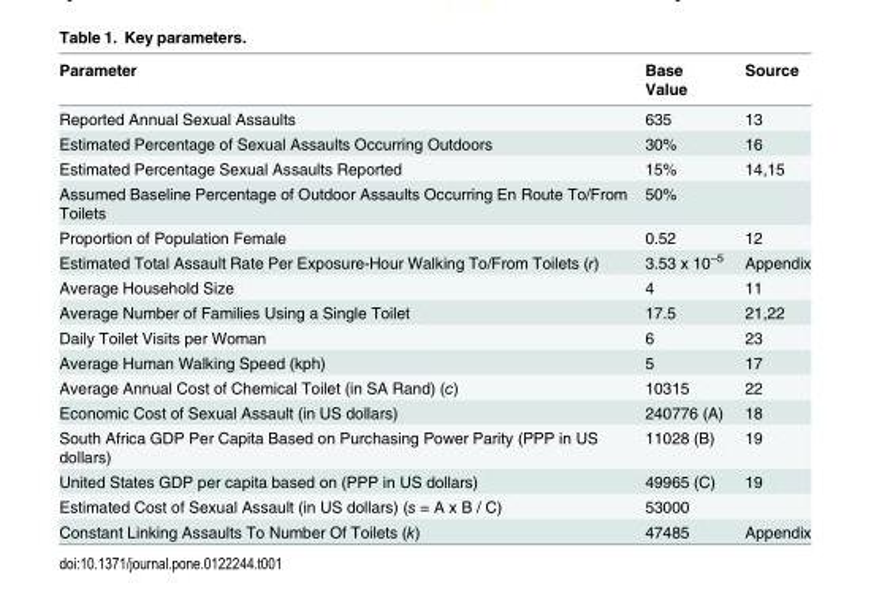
<table><thead><tr><td>Parameter</td><td>Base Value</td><td>Source</td></tr></thead><tbody><tr><td>Reported Annual Sexual Assaults</td><td>635</td><td>13</td></tr><tr><td>Estimated Percentage of Sexual Assaults Occurring Outdoors</td><td>30%</td><td>16</td></tr><tr><td>Estimated Percentage Sexual Assaults Reported</td><td>15%</td><td>14,15</td></tr><tr><td>Assumed Baseline Percentage of Outdoor Assaults Occurring En Route To/From Toilets</td><td>50%</td><td></td></tr><tr><td>Proportion of Population Female</td><td>0.52</td><td>12</td></tr><tr><td>Estimated Total Assault Rate Per Exposure-Hour Walking To/From Toilets (r)</td><td>3.53 x 10<sup>–5</sup></td><td>Appendix</td></tr><tr><td>Average Household Size</td><td>4</td><td>11</td></tr><tr><td>Average Number of Families Using a Single Toilet</td><td>17.5</td><td>21,22</td></tr><tr><td>Daily Toilet Visits per Woman</td><td>6</td><td>23</td></tr><tr><td>Average Human Walking Speed (kph)</td><td>5</td><td>17</td></tr><tr><td>Average Annual Cost of Chemical Toilet (in SA Rand) (c)</td><td>10315</td><td>22</td></tr><tr><td>Economic Cost of Sexual Assault (in US dollars)</td><td>240776 (A)</td><td>18</td></tr><tr><td>South Africa GDP Per Capita Based on Purchasing Power Parity (PPP in US dollars)</td><td>11028 (B)</td><td>19</td></tr><tr><td>United States GDP per capita based on (PPP in US dollars)</td><td>49965 (C)</td><td>19</td></tr><tr><td>Estimated Cost of Sexual Assault (in US dollars) (s = A x B / C)</td><td>53000</td><td></td></tr><tr><td>Constant Linking Assaults To Number Of Toilets (k)</td><td>47485</td><td>Appendix</td></tr></tbody></table>